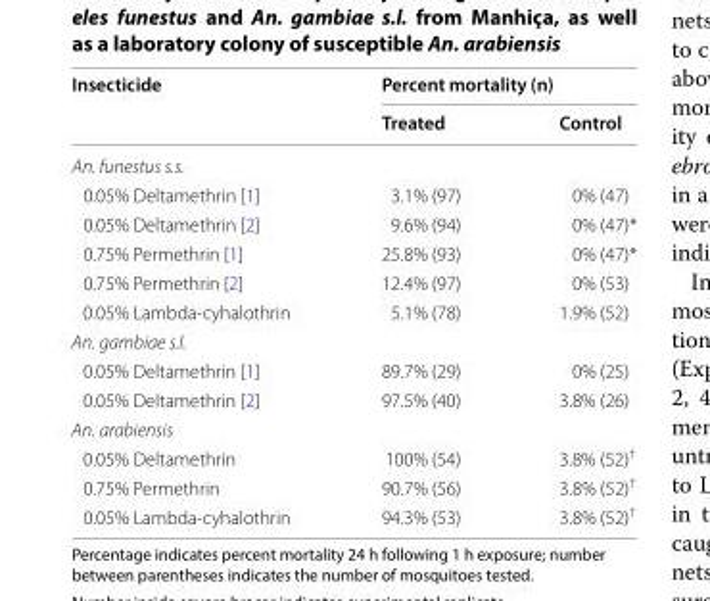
<table><thead><tr><td rowspan="2">Insecticide</td><td colspan="2">Percent mortality (n)</td></tr><tr><td>Treated</td><td>Control</td></tr></thead><tbody><tr><td colspan="3">An. funestus s.s.</td></tr><tr><td>0.05% Deltamethrin [1]</td><td>3.1% (97)</td><td>0% (47)</td></tr><tr><td>0.05% Deltamethrin [2]</td><td>9.6% (94)</td><td>0% (47)*</td></tr><tr><td>0.75% Permethrin [1]</td><td>25.8% (93)</td><td>0% (47)*</td></tr><tr><td>0.75% Permethrin [2]</td><td>12.4% (97)</td><td>0% (53)</td></tr><tr><td>0.05% Lambda-cyhalothrin</td><td>5.1% (78)</td><td>1.9% (52)</td></tr><tr><td colspan="3">An. gambiae s.l.</td></tr><tr><td>0.05% Deltamethrin [1]</td><td>89.7% (29)</td><td>0% (25)</td></tr><tr><td>0.05% Deltamethrin [2]</td><td>97.5% (40)</td><td>3.8% (26)</td></tr><tr><td colspan="3">An. arabiensis</td></tr><tr><td>0.05% Deltamethrin</td><td>100% (54)</td><td>3.8% (52)<sup>†</sup></td></tr><tr><td>0.75% Permethrin</td><td>90.7% (56)</td><td>3.8% (52)<sup>†</sup></td></tr><tr><td>0.05% Lambda-cyhalothrin</td><td>94.3% (53)</td><td>3.8% (52)<sup>†</sup></td></tr></tbody></table>